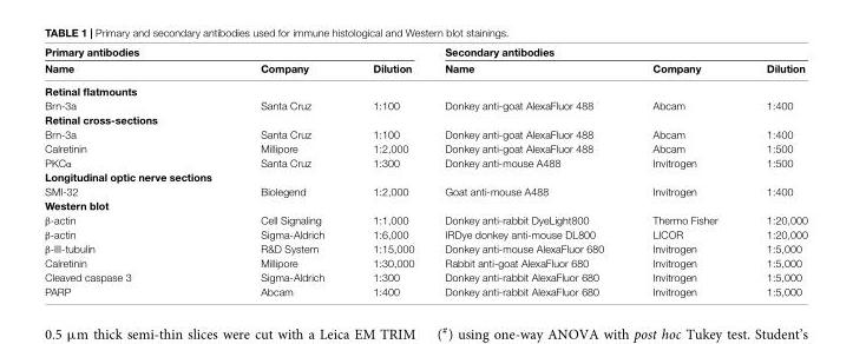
<table><thead><tr><td colspan="3">Primary antibodies</td><td colspan="3">Secondary antibodies</td></tr><tr><td>Name</td><td>Company</td><td>Dilution</td><td>Name</td><td>Company</td><td>Dilution</td></tr></thead><tbody><tr><td colspan="6">Retinal flatmounts</td></tr><tr><td>Brn-3a</td><td>Santa Cruz</td><td>1:100</td><td>Donkey anti-goat AlexaFluor 488</td><td>Abcam</td><td>1:400</td></tr><tr><td colspan="6">Retinal cross-sections</td></tr><tr><td>Brn-3a</td><td>Santa Cruz</td><td>1:100</td><td>Donkey anti-goat AlexaFluor 488</td><td>Abcam</td><td>1:400</td></tr><tr><td>Calretinin</td><td>Millipore</td><td>1:2,000</td><td>Donkey anti-goat AlexaFluor 488</td><td>Abcam</td><td>1:500</td></tr><tr><td>PKCα</td><td>Santa Cruz</td><td>1:300</td><td>Donkey anti-mouse A488</td><td>Invitrogen</td><td>1:500</td></tr><tr><td colspan="6">Longitudinal optic nerve sections</td></tr><tr><td>SMI-32</td><td>Biolegend</td><td>1:2,000</td><td>Goat anti-mouse A488</td><td>Invitrogen</td><td>1:400</td></tr><tr><td colspan="6">Western blot</td></tr><tr><td>β-actin</td><td>Cell Signaling</td><td>1:1,000</td><td>Donkey anti-rabbit DyeLight800</td><td>Thermo Fisher</td><td>1:20,000</td></tr><tr><td>β-actin</td><td>Sigma-Aldrich</td><td>1:6,000</td><td>IRDye donkey anti-mouse DL800</td><td>LICOR</td><td>1:20,000</td></tr><tr><td>β-III-tubulin</td><td>R&amp;D System</td><td>1:15,000</td><td>Donkey anti-mouse AlexaFluor 680</td><td>Invitrogen</td><td>1:5,000</td></tr><tr><td>Calretinin</td><td>Millipore</td><td>1:30,000</td><td>Rabbit anti-goat AlexaFluor 680</td><td>Invitrogen</td><td>1:5,000</td></tr><tr><td>Cleaved caspase 3</td><td>Sigma-Aldrich</td><td>1:300</td><td>Donkey anti-rabbit AlexaFluor 680</td><td>Invitrogen</td><td>1:5,000</td></tr><tr><td>PARP</td><td>Abcam</td><td>1:400</td><td>Donkey anti-rabbit AlexaFluor 680</td><td>Invitrogen</td><td>1:5,000</td></tr></tbody></table>